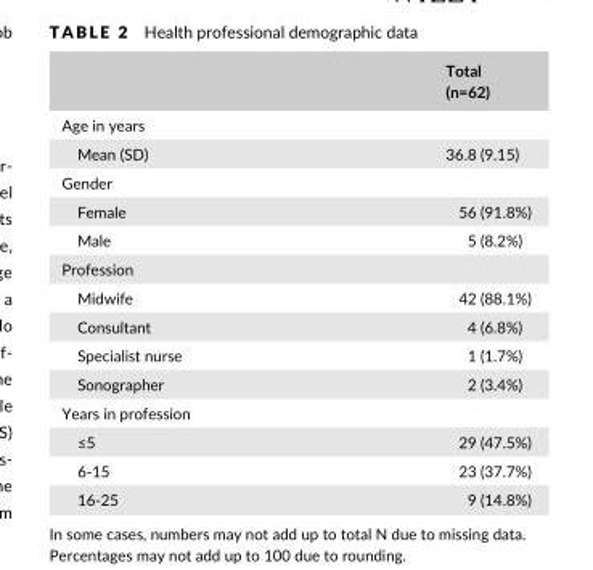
<table><thead><tr><td></td><td>Total (n=62)</td></tr></thead><tbody><tr><td colspan="2">Age in years</td></tr><tr><td>Mean (SD)</td><td>36.8 (9.15)</td></tr><tr><td colspan="2">Gender</td></tr><tr><td>Female</td><td>56 (91.8%)</td></tr><tr><td>Male</td><td>5 (8.2%)</td></tr><tr><td colspan="2">Profession</td></tr><tr><td>Midwife</td><td>42 (88.1%)</td></tr><tr><td>Consultant</td><td>4 (6.8%)</td></tr><tr><td>Specialist nurse</td><td>1 (1.7%)</td></tr><tr><td>Sonographer</td><td>2 (3.4%)</td></tr><tr><td colspan="2">Years in profession</td></tr><tr><td>≤5</td><td>29 (47.5%)</td></tr><tr><td>6- 15</td><td>23 (37.7%)</td></tr><tr><td>16- 25</td><td>9 (14.8%)</td></tr></tbody></table>